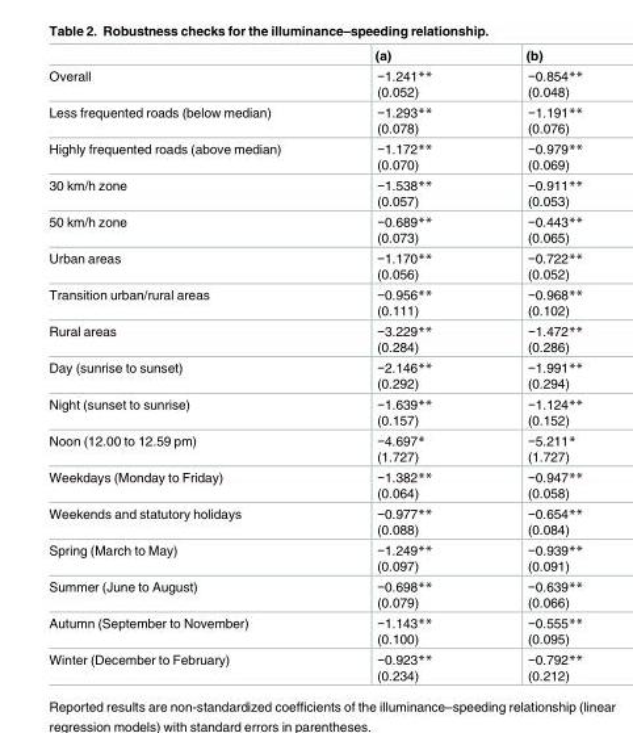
<table><thead><tr><td></td><td>(a)</td><td>(b)</td></tr></thead><tbody><tr><td>Overall</td><td>−1.241** (0.052)</td><td>−0.854** (0.048)</td></tr><tr><td>Less frequented roads (below median)</td><td>−1.293** (0.078)</td><td>−1.191** (0.076)</td></tr><tr><td>Highly frequented roads (above median)</td><td>−1.172** (0.070)</td><td>−0.979** (0.069)</td></tr><tr><td>30 km/h zone</td><td>−1.538** (0.057)</td><td>−0.911** (0.053)</td></tr><tr><td>50 km/h zone</td><td>−0.689** (0.073)</td><td>−0.443** (0.065)</td></tr><tr><td>Urban areas</td><td>−1.170** (0.056)</td><td>−0.722** (0.052)</td></tr><tr><td>Transition urban/rural areas</td><td>−0.956** (0.111)</td><td>−0.968** (0.102)</td></tr><tr><td>Rural areas</td><td>−3.229** (0.284)</td><td>−1.472** (0.286)</td></tr><tr><td>Day (sunrise to sunset)</td><td>−2.146** (0.292)</td><td>−1.991** (0.294)</td></tr><tr><td>Night (sunset to sunrise)</td><td>−1.639** (0.157)</td><td>−1.124** (0.152)</td></tr><tr><td>Noon (12.00 to 12.59 pm)</td><td>−4.697* (1.727)</td><td>−5.211* (1.727)</td></tr><tr><td>Weekdays (Monday to Friday)</td><td>−1.382** (0.064)</td><td>−0.947** (0.058)</td></tr><tr><td>Weekends and statutory holidays</td><td>−0.977** (0.088)</td><td>−0.654** (0.084)</td></tr><tr><td>Spring (March to May)</td><td>−1.249** (0.097)</td><td>−0.939** (0.091)</td></tr><tr><td>Summer (June to August)</td><td>−0.698** (0.079)</td><td>−0.639** (0.066)</td></tr><tr><td>Autumn (September to November)</td><td>−1.143** (0.100)</td><td>−0.555** (0.095)</td></tr><tr><td>Winter (December to February)</td><td>−0.923** (0.234)</td><td>−0.792** (0.212)</td></tr></tbody></table>